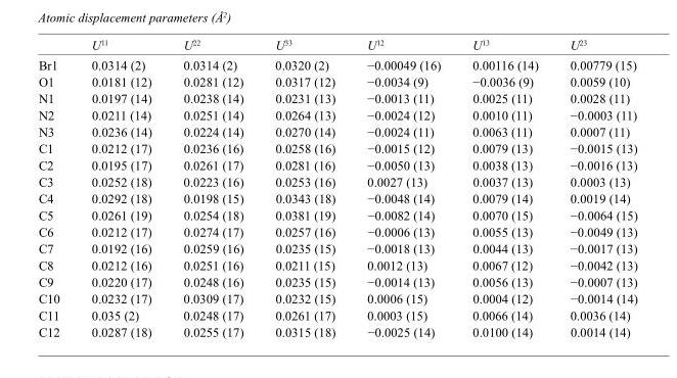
<table><thead><tr><td></td><td>U<sup>11</sup></td><td>U<sup>22</sup></td><td>U<sup>33</sup></td><td>U<sup>12</sup></td><td>U<sup>13</sup></td><td>U<sup>23</sup></td></tr></thead><tbody><tr><td>Br1</td><td>0.0314 (2)</td><td>0.0314 (2)</td><td>0.0320 (2)</td><td>−0.00049 (16)</td><td>0.00116 (14)</td><td>0.00779 (15)</td></tr><tr><td>O1</td><td>0.0181 (12)</td><td>0.0281 (12)</td><td>0.0317 (12)</td><td>−0.0034 (9)</td><td>−0.0036 (9)</td><td>0.0059 (10)</td></tr><tr><td>N1</td><td>0.0197 (14)</td><td>0.0238 (14)</td><td>0.0231 (13)</td><td>−0.0013 (11)</td><td>0.0025 (11)</td><td>0.0028 (11)</td></tr><tr><td>N2</td><td>0.0211 (14)</td><td>0.0251 (14)</td><td>0.0264 (13)</td><td>−0.0024 (12)</td><td>0.0010 (11)</td><td>−0.0003 (11)</td></tr><tr><td>N3</td><td>0.0236 (14)</td><td>0.0224 (14)</td><td>0.0270 (14)</td><td>−0.0024 (11)</td><td>0.0063 (11)</td><td>0.0007 (11)</td></tr><tr><td>C1</td><td>0.0212 (17)</td><td>0.0236 (16)</td><td>0.0258 (16)</td><td>−0.0015 (12)</td><td>0.0079 (13)</td><td>−0.0015 (13)</td></tr><tr><td>C2</td><td>0.0195 (17)</td><td>0.0261 (17)</td><td>0.0281 (16)</td><td>−0.0050 (13)</td><td>0.0038 (13)</td><td>−0.0016 (13)</td></tr><tr><td>C3</td><td>0.0252 (18)</td><td>0.0223 (16)</td><td>0.0253 (16)</td><td>0.0027 (13)</td><td>0.0037 (13)</td><td>0.0003 (13)</td></tr><tr><td>C4</td><td>0.0292 (18)</td><td>0.0198 (15)</td><td>0.0343 (18)</td><td>−0.0048 (14)</td><td>0.0079 (14)</td><td>0.0019 (14)</td></tr><tr><td>C5</td><td>0.0261 (19)</td><td>0.0254 (18)</td><td>0.0381 (19)</td><td>−0.0082 (14)</td><td>0.0070 (15)</td><td>−0.0064 (15)</td></tr><tr><td>C6</td><td>0.0212 (17)</td><td>0.0274 (17)</td><td>0.0257 (16)</td><td>−0.0006 (13)</td><td>0.0055 (13)</td><td>−0.0049 (13)</td></tr><tr><td>C7</td><td>0.0192 (16)</td><td>0.0259 (16)</td><td>0.0235 (15)</td><td>−0.0018 (13)</td><td>0.0044 (13)</td><td>−0.0017 (13)</td></tr><tr><td>C8</td><td>0.0212 (16)</td><td>0.0251 (16)</td><td>0.0211 (15)</td><td>0.0012 (13)</td><td>0.0067 (12)</td><td>−0.0042 (13)</td></tr><tr><td>C9</td><td>0.0220 (17)</td><td>0.0248 (16)</td><td>0.0235 (15)</td><td>−0.0014 (13)</td><td>0.0056 (13)</td><td>−0.0007 (13)</td></tr><tr><td>C10</td><td>0.0232 (17)</td><td>0.0309 (17)</td><td>0.0232 (15)</td><td>0.0006 (15)</td><td>0.0004 (12)</td><td>−0.0014 (14)</td></tr><tr><td>C11</td><td>0.035 (2)</td><td>0.0248 (17)</td><td>0.0261 (17)</td><td>0.0003 (15)</td><td>0.0066 (14)</td><td>0.0036 (14)</td></tr><tr><td>C12</td><td>0.0287 (18)</td><td>0.0255 (17)</td><td>0.0315 (18)</td><td>−0.0025 (14)</td><td>0.0100 (14)</td><td>0.0014 (14)</td></tr></tbody></table>